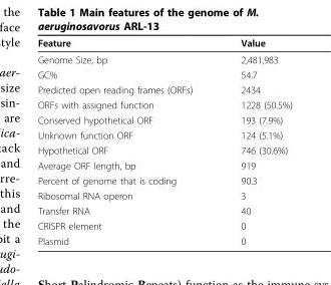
<table><thead><tr><td>Feature</td><td>Value</td></tr></thead><tbody><tr><td>Genome Size, bp</td><td>2,481,983</td></tr><tr><td>GC%</td><td>54.7</td></tr><tr><td>Predicted open reading frames (ORFs)</td><td>2434</td></tr><tr><td>ORFs with assigned function</td><td>1228 (50.5%)</td></tr><tr><td>Conserved hypothetical ORF</td><td>193 (7.9%)</td></tr><tr><td>Unknown function ORF</td><td>124 (5.1%)</td></tr><tr><td>Hypothetical ORF</td><td>746 (30.6%)</td></tr><tr><td>Average ORF length, bp</td><td>919</td></tr><tr><td>Percent of genome that is coding</td><td>90.3</td></tr><tr><td>Ribosomal RNA operon</td><td>3</td></tr><tr><td>Transfer RNA</td><td>40</td></tr><tr><td>CRISPR element</td><td>0</td></tr><tr><td>Plasmid</td><td>0</td></tr></tbody></table>